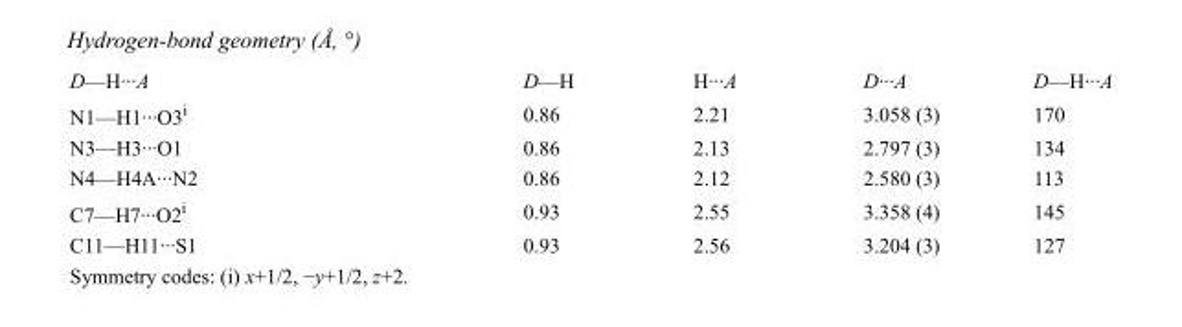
<table><tbody><tr><td>D—H···A</td><td>D—H</td><td>H···A</td><td>D···A</td><td>D—H···A</td></tr><tr><td>N1—H1···O3<sup>i</sup></td><td>0.86</td><td>2.21</td><td>3.058 (3)</td><td>170</td></tr><tr><td>N3—H3···O1</td><td>0.86</td><td>2.13</td><td>2.797 (3)</td><td>134</td></tr><tr><td>N4—H4A···N2</td><td>0.86</td><td>2.12</td><td>2.580 (3)</td><td>113</td></tr><tr><td>C7—H7···O2<sup>i</sup></td><td>0.93</td><td>2.55</td><td>3.358 (4)</td><td>145</td></tr><tr><td>C11—H11···S1</td><td>0.93</td><td>2.56</td><td>3.204 (3)</td><td>127</td></tr></tbody></table>